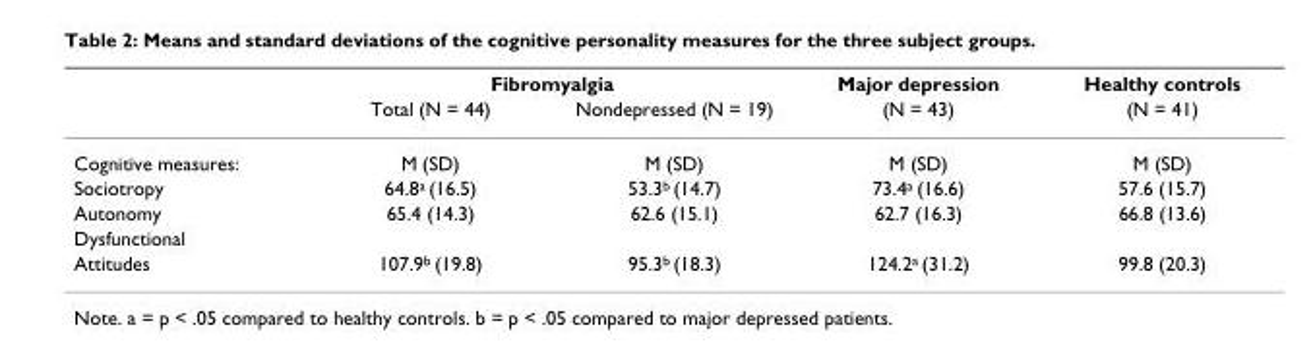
<table><thead><tr><td rowspan="2"></td><td colspan="2">Fibromyalgia</td><td rowspan="2">Major depression (N = 43)</td><td rowspan="2">Healthy controls (N = 41)</td></tr><tr><td>Total (N = 44)</td><td>Nondepressed (N = 19)</td></tr></thead><tbody><tr><td>Cognitive measures:</td><td>M (SD)</td><td>M (SD)</td><td>M (SD)</td><td>M (SD)</td></tr><tr><td>Sociotropy</td><td>64.8<sup>a</sup> (16.5)</td><td>53.3<sup>b</sup> (14.7)</td><td>73.4<sup>a</sup> (16.6)</td><td>57.6 (15.7)</td></tr><tr><td>Autonomy</td><td>65.4 (14.3)</td><td>62.6 (15.1)</td><td>62.7 (16.3)</td><td>66.8 (13.6)</td></tr><tr><td colspan="5">Dysfunctional</td></tr><tr><td>Attitudes</td><td>107.9<sup>b</sup> (19.8)</td><td>95.3<sup>b</sup> (18.3)</td><td>124.2<sup>a</sup> (31.2)</td><td>99.8 (20.3)</td></tr></tbody></table>